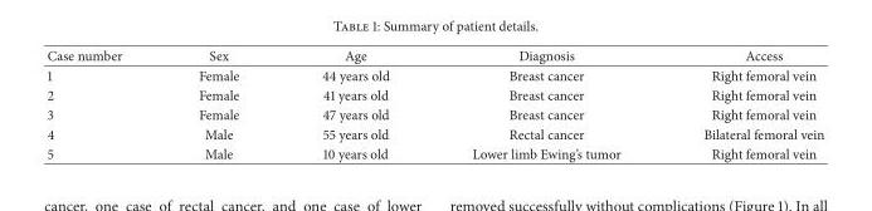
<table><thead><tr><td>Case number</td><td>Sex</td><td>Age</td><td>Diagnosis</td><td>Access</td></tr></thead><tbody><tr><td>1</td><td>Female</td><td>44 years old</td><td>Breast cancer</td><td>Right femoral vein</td></tr><tr><td>2</td><td>Female</td><td>41 years old</td><td>Breast cancer</td><td>Right femoral vein</td></tr><tr><td>3</td><td>Female</td><td>47 years old</td><td>Breast cancer</td><td>Right femoral vein</td></tr><tr><td>4</td><td>Male</td><td>55 years old</td><td>Rectal cancer</td><td>Bilateral femoral vein</td></tr><tr><td>5</td><td>Male</td><td>10 years old</td><td>Lower limb Ewing’s tumor</td><td>Right femoral vein</td></tr></tbody></table>